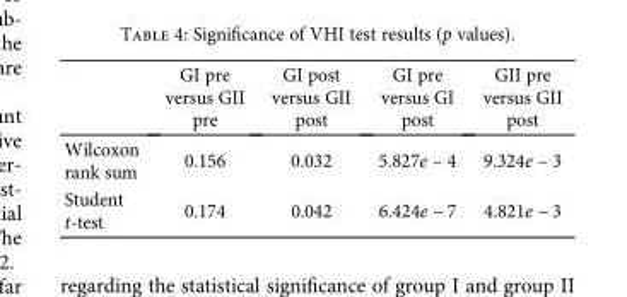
<table><thead><tr><td></td><td>GI pre versus GII pre</td><td>GI post versus GII post</td><td>GI pre versus GI post</td><td>GII pre versus GII post</td></tr></thead><tbody><tr><td>Wilcoxon rank sum</td><td>0.156</td><td>0.032</td><td>5.827e – 4</td><td>9.324e – 3</td></tr><tr><td>Student t-test</td><td>0.174</td><td>0.042</td><td>6.424e − 7</td><td>4.821e − 3</td></tr></tbody></table>